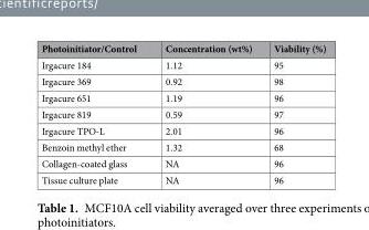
<table><thead><tr><td>Photoinitiator/Control</td><td>Concentration (wt%)</td><td>Viability (%)</td></tr></thead><tbody><tr><td>Irgacure 184</td><td>1.12</td><td>95</td></tr><tr><td>Irgacure 369</td><td>0.92</td><td>98</td></tr><tr><td>Irgacure 651</td><td>1.19</td><td>96</td></tr><tr><td>Irgacure 819</td><td>0.59</td><td>97</td></tr><tr><td>Irgacure TPO-L</td><td>2.01</td><td>96</td></tr><tr><td>Benzoin methyl ether</td><td>1.32</td><td>68</td></tr><tr><td>Collagen-coated glass</td><td>NA</td><td>96</td></tr><tr><td>Tissue culture plate</td><td>NA</td><td>96</td></tr></tbody></table>